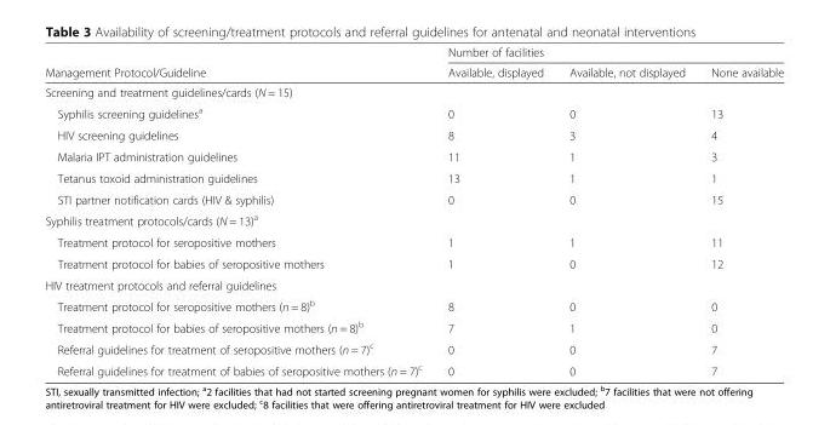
<table><thead><tr><td rowspan="2">Management Protocol/Guideline</td><td colspan="3">Number of facilities</td></tr><tr><td>Available, displayed</td><td>Available, not displayed</td><td>None available</td></tr></thead><tbody><tr><td colspan="4">Screening and treatment guidelines/cards (N = 15)</td></tr><tr><td>Syphilis screening guidelines<sup>a</sup></td><td>0</td><td>0</td><td>13</td></tr><tr><td>HIV screening guidelines</td><td>8</td><td>3</td><td>4</td></tr><tr><td>Malaria IPT administration guidelines</td><td>11</td><td>1</td><td>3</td></tr><tr><td>Tetanus toxoid administration guidelines</td><td>13</td><td>1</td><td>1</td></tr><tr><td>STI partner notification cards (HIV &amp; syphilis)</td><td>0</td><td>0</td><td>15</td></tr><tr><td colspan="4">Syphilis treatment protocols/cards (N = 13)<sup>a</sup></td></tr><tr><td>Treatment protocol for seropositive mothers</td><td>1</td><td>1</td><td>11</td></tr><tr><td>Treatment protocol for babies of seropositive mothers</td><td>1</td><td>0</td><td>12</td></tr><tr><td colspan="4">HIV treatment protocols and referral guidelines</td></tr><tr><td>Treatment protocol for seropositive mothers (n = 8)<sup>b</sup></td><td>8</td><td>0</td><td>0</td></tr><tr><td>Treatment protocol for babies of seropositive mothers (n = 8)<sup>b</sup></td><td>7</td><td>1</td><td>0</td></tr><tr><td>Referral guidelines for treatment of seropositive mothers (n = 7)<sup>c</sup></td><td>0</td><td>0</td><td>7</td></tr><tr><td>Referral guidelines for treatment of babies of seropositive mothers (n = 7)<sup>c</sup></td><td>0</td><td>0</td><td>7</td></tr></tbody></table>